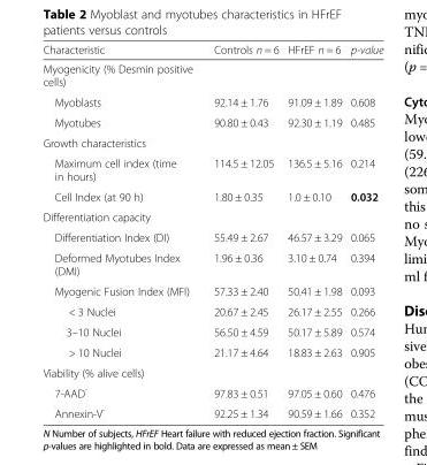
<table><thead><tr><td>Characteristic</td><td>Controls n = 6</td><td>HFrEF n = 6</td><td>p-value</td></tr></thead><tbody><tr><td colspan="4">Myogenicity (% Desmin positive cells)</td></tr><tr><td>Myoblasts</td><td>92.14 ± 1.76</td><td>91.09 ± 1.89</td><td>0.608</td></tr><tr><td>Myotubes</td><td>90.80 ± 0.43</td><td>92.30 ± 1.19</td><td>0.485</td></tr><tr><td colspan="4">Growth characteristics</td></tr><tr><td>Maximum cell index (time in hours)</td><td>114.5 ± 12.05</td><td>136.5 ± 5.16</td><td>0.214</td></tr><tr><td>Cell Index (at 90 h)</td><td>1.80 ± 0.35</td><td>1.0 ± 0.10</td><td>0.032</td></tr><tr><td colspan="4">Differentiation capacity</td></tr><tr><td>Differentiation Index (DI)</td><td>55.49 ± 2.67</td><td>46.57 ± 3.29</td><td>0.065</td></tr><tr><td>Deformed Myotubes Index (DMI)</td><td>1.96 ± 0.36</td><td>3.10 ± 0.74</td><td>0.394</td></tr><tr><td>Myogenic Fusion Index (MFI)</td><td>57.33 ± 2.40</td><td>50.41 ± 1.98</td><td>0.093</td></tr><tr><td>&lt; 3 Nuclei</td><td>20.67 ± 2.45</td><td>26.17 ± 2.55</td><td>0.266</td></tr><tr><td>3–10 Nuclei</td><td>56.50 ± 4.59</td><td>50.17 ± 5.89</td><td>0.574</td></tr><tr><td>&gt; 10 Nuclei</td><td>21.17 ± 4.64</td><td>18.83 ± 2.63</td><td>0.905</td></tr><tr><td colspan="4">Viability (% alive cells)</td></tr><tr><td>7-AAD<sup>-</sup></td><td>97.83 ± 0.51</td><td>97.05 ± 0.60</td><td>0.476</td></tr><tr><td>Annexin-V<sup>-</sup></td><td>92.25 ± 1.34</td><td>90.59 ± 1.66</td><td>0.352</td></tr></tbody></table>